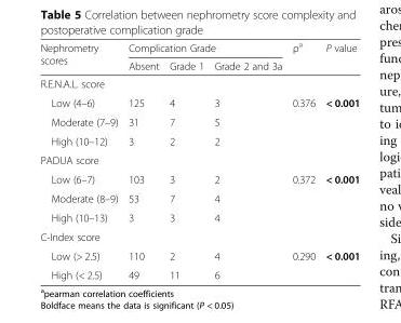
<table><thead><tr><td rowspan="2">Nephrometry scores</td><td colspan="3">Complication Grade</td><td rowspan="2">ρ<sup>a</sup></td><td rowspan="2">P value</td></tr><tr><td>Absent</td><td>Grade 1</td><td>Grade 2 and 3a</td></tr></thead><tbody><tr><td colspan="6">R.E.N.A.L. score</td></tr><tr><td>Low (4–6)</td><td>125</td><td>4</td><td>3</td><td rowspan="3">0.376</td><td rowspan="3">&lt; 0.001</td></tr><tr><td>Moderate (7–9)</td><td>31</td><td>7</td><td>5</td></tr><tr><td>High (10–12)</td><td>3</td><td>2</td><td>2</td></tr><tr><td colspan="6">PADUA score</td></tr><tr><td>Low (6–7)</td><td>103</td><td>3</td><td>2</td><td rowspan="3">0.372</td><td rowspan="3">&lt; 0.001</td></tr><tr><td>Moderate (8–9)</td><td>53</td><td>7</td><td>4</td></tr><tr><td>High (10–13)</td><td>3</td><td>3</td><td>4</td></tr><tr><td colspan="6">C-Index score</td></tr><tr><td>Low (&gt; 2.5)</td><td>110</td><td>2</td><td>4</td><td rowspan="2">0.290</td><td rowspan="2">&lt; 0.001</td></tr><tr><td>High (&lt; 2.5)</td><td>49</td><td>11</td><td>6</td></tr></tbody></table>